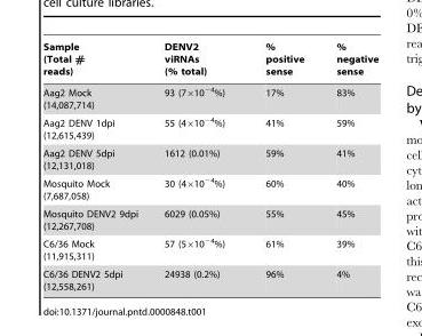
<table><thead><tr><td>Sample (Total # reads)</td><td>DENV2 viRNAs (% total)</td><td>% positive sense</td><td>% negative sense</td></tr></thead><tbody><tr><td>Aag2 Mock (14,087,714)</td><td>93 (7×10<sup>−4</sup>%)</td><td>17%</td><td>83%</td></tr><tr><td>Aag2 DENV 1dpi (12,615,439)</td><td>55 (4×10<sup>−4</sup>%)</td><td>41%</td><td>59%</td></tr><tr><td>Aag2 DENV 5dpi (12,131,018)</td><td>1612 (0.01%)</td><td>59%</td><td>41%</td></tr><tr><td>Mosquito Mock (7,687,058)</td><td>30 (4×10<sup>−4</sup>%)</td><td>60%</td><td>40%</td></tr><tr><td>Mosquito DENV2 9dpi (12,267,708)</td><td>6029 (0.05%)</td><td>55%</td><td>45%</td></tr><tr><td>C6/36 Mock (11,915,311)</td><td>57 (5×10<sup>−4</sup>%)</td><td>61%</td><td>39%</td></tr><tr><td>C6/36 DENV2 5dpi (12,558,261)</td><td>24938 (0.2%)</td><td>96%</td><td>4%</td></tr></tbody></table>